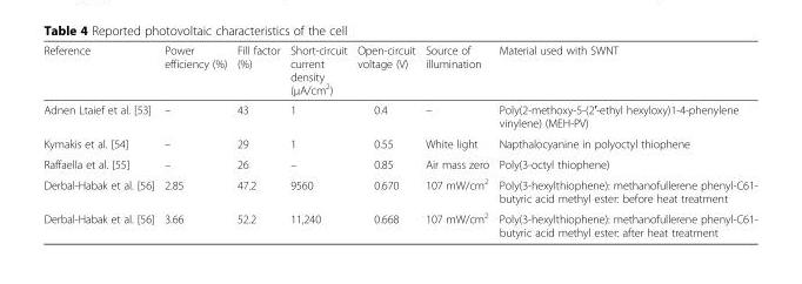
<table><thead><tr><td>Reference</td><td>Power efficiency (%)</td><td>Fill factor (%)</td><td>Short-circuit current density (μA/cm<sup>2</sup>)</td><td>Open-circuit voltage (V)</td><td>Source of illumination</td><td>Material used with SWNT</td></tr></thead><tbody><tr><td>Adnen Ltaief et al. [53]</td><td>–</td><td>43</td><td>1</td><td>0.4</td><td>–</td><td>Poly(2-methoxy-5-(2′-ethyl hexyloxy)1-4-phenylene vinylene) (MEH-PV)</td></tr><tr><td>Kymakis et al. [54]</td><td>–</td><td>29</td><td>1</td><td>0.55</td><td>White light</td><td>Napthalocyanine in polyoctyl thiophene</td></tr><tr><td>Raffaella et al. [55]</td><td>–</td><td>26</td><td>–</td><td>0.85</td><td>Air mass zero</td><td>Poly(3-octyl thiophene)</td></tr><tr><td>Derbal-Habak et al. [56]</td><td>2.85</td><td>47.2</td><td>9560</td><td>0.670</td><td>107 mW/cm<sup>2</sup></td><td>Poly(3-hexylthiophene): methanofullerene phenyl-C61- butyric acid methyl ester: before heat treatment</td></tr><tr><td>Derbal-Habak et al. [56]</td><td>3.66</td><td>52.2</td><td>11,240</td><td>0.668</td><td>107 mW/cm<sup>2</sup></td><td>Poly(3-hexylthiophene): methanofullerene phenyl-C61- butyric acid methyl ester: after heat treatment</td></tr></tbody></table>